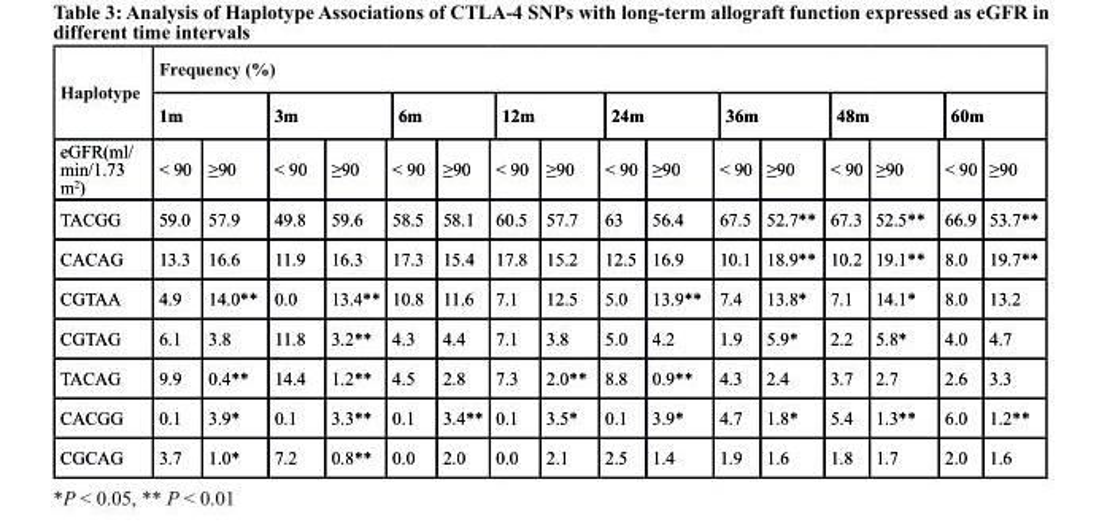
<table><thead><tr><td rowspan="3">Haplotype eGFR(ml/ min/1.73 m<sup>2</sup>)</td><td colspan="16">Frequency (%)</td></tr><tr><td colspan="2">1m</td><td colspan="2">3m</td><td colspan="2">6m</td><td colspan="2">12m</td><td colspan="2">24m</td><td colspan="2">36m</td><td colspan="2">48m</td><td colspan="2">60m</td></tr><tr><td>&lt; 90</td><td>≥90</td><td>&lt; 90</td><td>≥90</td><td>&lt; 90</td><td>≥90</td><td>&lt; 90</td><td>≥90</td><td>&lt; 90</td><td>≥90</td><td>&lt; 90</td><td>≥90</td><td>&lt; 90</td><td>≥90</td><td>&lt; 90</td><td>≥90</td></tr></thead><tbody><tr><td>TACGG</td><td>59.0</td><td>57.9</td><td>49.8</td><td>59.6</td><td>58.5</td><td>58.1</td><td>60.5</td><td>57.7</td><td>63</td><td>56.4</td><td>67.5</td><td>52.7**</td><td>67.3</td><td>52.5**</td><td>66.9</td><td>53.7**</td></tr><tr><td>CACAG</td><td>13.3</td><td>16.6</td><td>11.9</td><td>16.3</td><td>17.3</td><td>15.4</td><td>17.8</td><td>15.2</td><td>12.5</td><td>16.9</td><td>10.1</td><td>18.9**</td><td>10.2</td><td>19.1**</td><td>8.0</td><td>19.7**</td></tr><tr><td>CGTAA</td><td>4.9</td><td>14.0**</td><td>0.0</td><td>13.4**</td><td>10.8</td><td>11.6</td><td>7.1</td><td>12.5</td><td>5.0</td><td>13.9**</td><td>7.4</td><td>13.8*</td><td>7.1</td><td>14.1*</td><td>8.0</td><td>13.2</td></tr><tr><td>CGTAG</td><td>6.1</td><td>3.8</td><td>11.8</td><td>3.2**</td><td>4.3</td><td>4.4</td><td>7.1</td><td>3.8</td><td>5.0</td><td>4.2</td><td>1.9</td><td>5.9*</td><td>2.2</td><td>5.8*</td><td>4.0</td><td>4.7</td></tr><tr><td>TACAG</td><td>9.9</td><td>0.4**</td><td>14.4</td><td>1.2**</td><td>4.5</td><td>2.8</td><td>7.3</td><td>2.0**</td><td>8.8</td><td>0.9**</td><td>4.3</td><td>2.4</td><td>3.7</td><td>2.7</td><td>2.6</td><td>3.3</td></tr><tr><td>CACGG</td><td>0.1</td><td>3.9*</td><td>0.1</td><td>3.3**</td><td>0.1</td><td>3.4**</td><td>0.1</td><td>3.5*</td><td>0.1</td><td>3.9*</td><td>4.7</td><td>1.8*</td><td>5.4</td><td>1.3**</td><td>6.0</td><td>1.2**</td></tr><tr><td>CGCAG</td><td>3.7</td><td>1.0*</td><td>7.2</td><td>0.8**</td><td>0.0</td><td>2.0</td><td>0.0</td><td>2.1</td><td>2.5</td><td>1.4</td><td>1.9</td><td>1.6</td><td>1.8</td><td>1.7</td><td>2.0</td><td>1.6</td></tr></tbody></table>